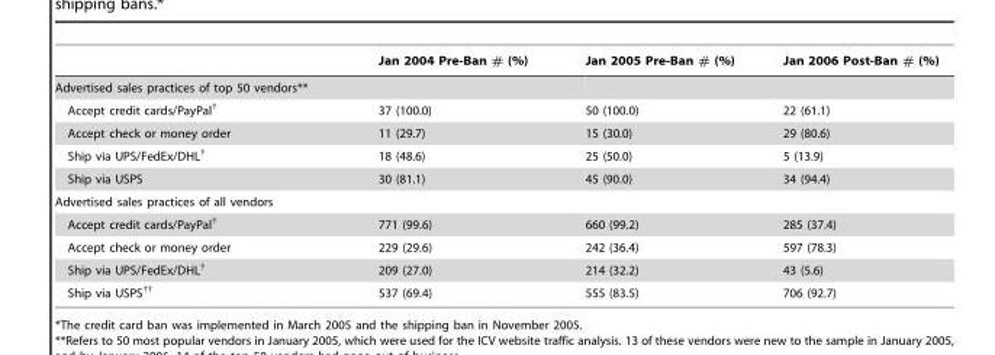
<table><thead><tr><td></td><td>Jan 2004 Pre-Ban # (%)</td><td>Jan 2005 Pre-Ban # (%)</td><td>Jan 2006 Post-Ban # (%)</td></tr></thead><tbody><tr><td colspan="4">Advertised sales practices of top 50 vendors**</td></tr><tr><td>Accept credit cards/PayPal†</td><td>37 (100.0)</td><td>50 (100.0)</td><td>22 (61.1)</td></tr><tr><td>Accept check or money order</td><td>11 (29.7)</td><td>15 (30.0)</td><td>29 (80.6)</td></tr><tr><td>Ship via UPS/FedEx/DHL†</td><td>18 (48.6)</td><td>25 (50.0)</td><td>5 (13.9)</td></tr><tr><td>Ship via USPS</td><td>30 (81.1)</td><td>45 (90.0)</td><td>34 (94.4)</td></tr><tr><td colspan="4">Advertised sales practices of all vendors</td></tr><tr><td>Accept credit cards/PayPal†</td><td>771 (99.6)</td><td>660 (99.2)</td><td>285 (37.4)</td></tr><tr><td>Accept check or money order</td><td>229 (29.6)</td><td>242 (36.4)</td><td>597 (78.3)</td></tr><tr><td>Ship via UPS/FedEx/DHL†</td><td>209 (27.0)</td><td>214 (32.2)</td><td>43 (5.6)</td></tr><tr><td>Ship via USPS††</td><td>537 (69.4)</td><td>555 (83.5)</td><td>706 (92.7)</td></tr></tbody></table>